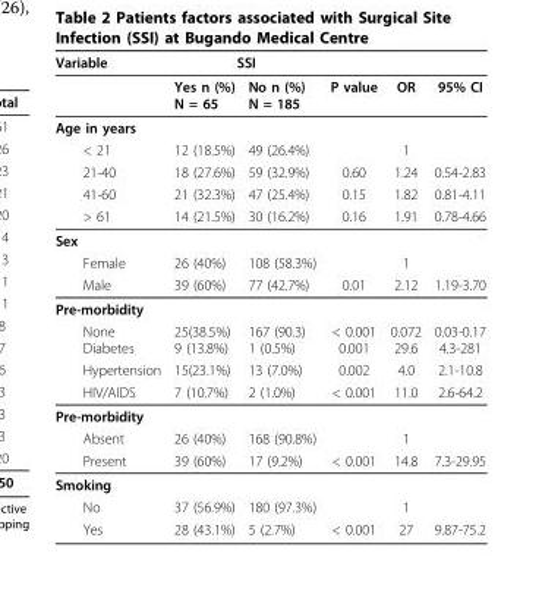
<table><thead><tr><td rowspan="2">Variable</td><td colspan="2">SSI</td><td rowspan="2">P value</td><td rowspan="2">OR</td><td rowspan="2">95% CI</td></tr><tr><td>Yes n (%) N = 65</td><td>No n (%) N = 185</td></tr></thead><tbody><tr><td colspan="6">Age in years</td></tr><tr><td>&lt; 21</td><td>12 (18.5%)</td><td>49 (26.4%)</td><td></td><td>1</td><td></td></tr><tr><td>21-40</td><td>18 (27.6%)</td><td>59 (32.9%)</td><td>0.60</td><td>1.24</td><td>0.54-2.83</td></tr><tr><td>41-60</td><td>21 (32.3%)</td><td>47 (25.4%)</td><td>0.15</td><td>1.82</td><td>0.81-4.11</td></tr><tr><td>&gt; 61</td><td>14 (21.5%)</td><td>30 (16.2%)</td><td>0.16</td><td>1.91</td><td>0.78-4.66</td></tr><tr><td colspan="6">Sex</td></tr><tr><td>Female</td><td>26 (40%)</td><td>108 (58.3%)</td><td></td><td>1</td><td></td></tr><tr><td>Male</td><td>39 (60%)</td><td>77 (42.7%)</td><td>0.01</td><td>2.12</td><td>1.19-3.70</td></tr><tr><td colspan="6">Pre-morbidity</td></tr><tr><td>None Diabetes</td><td>25(38.5%) 9 (13.8%)</td><td>167 (90.3) 1 (0.5%)</td><td>&lt; 0.001 0.001</td><td>0.072 29.6</td><td>0.03-0.17 4.3-281</td></tr><tr><td>Hypertension</td><td>15(23.1%)</td><td>13 (7.0%)</td><td>0.002</td><td>4.0</td><td>2.1-10.8</td></tr><tr><td>HIV/AIDS</td><td>7 (10.7%)</td><td>2 (1.0%)</td><td>&lt; 0.001</td><td>11.0</td><td>2.6-64.2</td></tr><tr><td colspan="6">Pre-morbidity</td></tr><tr><td>Absent</td><td>26 (40%)</td><td>168 (90.8%)</td><td></td><td>1</td><td></td></tr><tr><td>Present</td><td>39 (60%)</td><td>17 (9.2%)</td><td>&lt; 0.001</td><td>14.8</td><td>7.3-29.95</td></tr><tr><td colspan="6">Smoking</td></tr><tr><td>No</td><td>37 (56.9%)</td><td>180 (97.3%)</td><td></td><td>1</td><td></td></tr><tr><td>Yes</td><td>28 (43.1%)</td><td>5 (2.7%)</td><td>&lt; 0.001</td><td>27</td><td>9.87-75.2</td></tr></tbody></table>